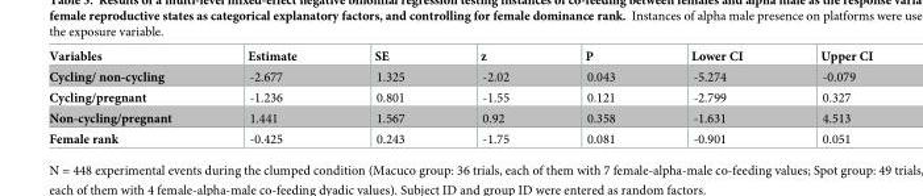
<table><thead><tr><td>Variables</td><td>Estimate</td><td>SE</td><td>z</td><td>P</td><td>Lower CI</td><td>Upper CI</td></tr></thead><tbody><tr><td>Cycling/ non-cycling</td><td>-2.677</td><td>1.325</td><td>-2.02</td><td>0.043</td><td>-5.274</td><td>-0.079</td></tr><tr><td>Cycling/pregnant</td><td>-1.236</td><td>0.801</td><td>-1.55</td><td>0.121</td><td>-2.799</td><td>0.327</td></tr><tr><td>Non-cycling/pregnant</td><td>1.441</td><td>1.567</td><td>0.92</td><td>0.358</td><td>-1.631</td><td>4.513</td></tr><tr><td>Female rank</td><td>-0.425</td><td>0.243</td><td>-1.75</td><td>0.081</td><td>-0.901</td><td>0.051</td></tr></tbody></table>